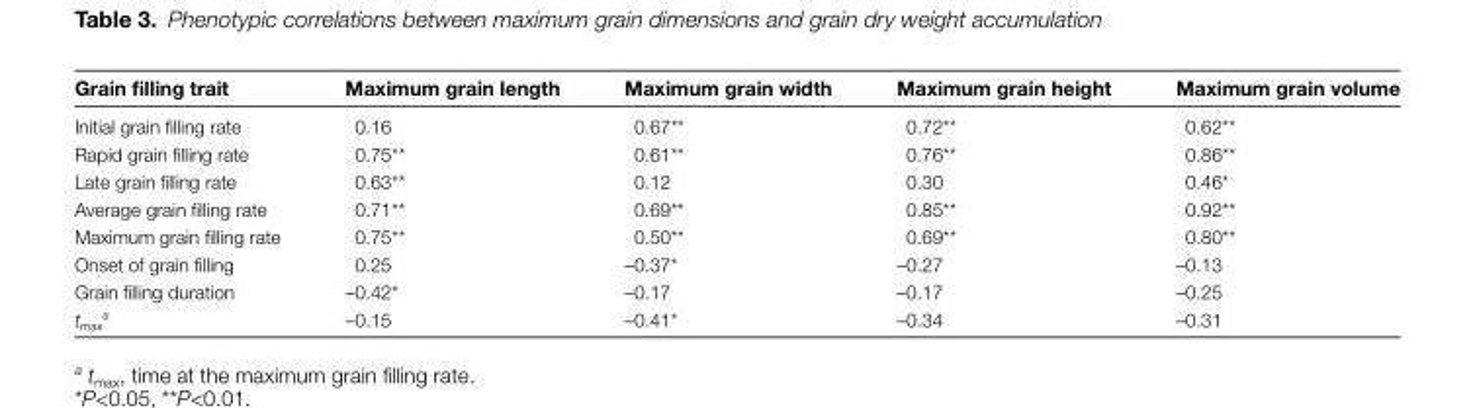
<table><thead><tr><td>Grain filling trait</td><td>Maximum grain length</td><td>Maximum grain width</td><td>Maximum grain height</td><td>Maximum grain volume</td></tr></thead><tbody><tr><td>Initial grain filling rate</td><td>0.16</td><td>0.67**</td><td>0.72**</td><td>0.62**</td></tr><tr><td>Rapid grain filling rate</td><td>0.75**</td><td>0.61**</td><td>0.76**</td><td>0.86**</td></tr><tr><td>Late grain filling rate</td><td>0.63**</td><td>0.12</td><td>0.30</td><td>0.46*</td></tr><tr><td>Average grain filling rate</td><td>0.71**</td><td>0.69**</td><td>0.85**</td><td>0.92**</td></tr><tr><td>Maximum grain filling rate</td><td>0.75**</td><td>0.50**</td><td>0.69**</td><td>0.80**</td></tr><tr><td>Onset of grain filling</td><td>0.25</td><td>–0.37*</td><td>–0.27</td><td>–0.13</td></tr><tr><td>Grain filling duration</td><td>–0.42*</td><td>–0.17</td><td>–0.17</td><td>–0.25</td></tr><tr><td>t<sub>max</sub> <sup>a</sup></td><td>–0.15</td><td>–0.41*</td><td>–0.34</td><td>–0.31</td></tr></tbody></table>